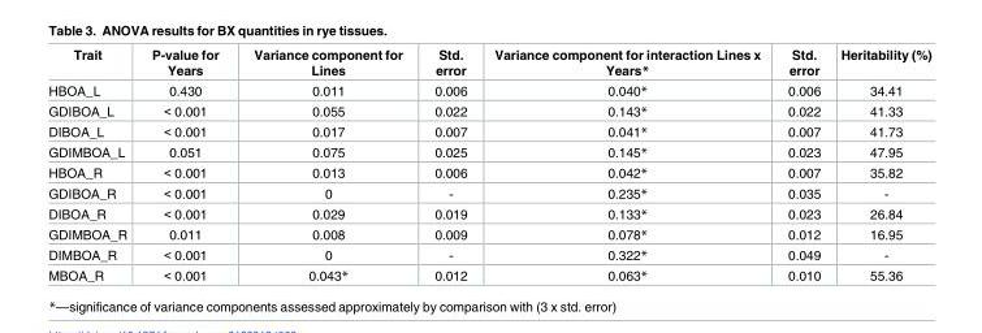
<table><thead><tr><td>Trait</td><td>P-value for Years</td><td>Variance component for Lines</td><td>Std. error</td><td>Variance component for interaction Lines x Years*</td><td>Std. error</td><td>Heritability (%)</td></tr></thead><tbody><tr><td>HBOA_L</td><td>0.430</td><td>0.011</td><td>0.006</td><td>0.040*</td><td>0.006</td><td>34.41</td></tr><tr><td>GDIBOA_L</td><td>&lt; 0.001</td><td>0.055</td><td>0.022</td><td>0.143*</td><td>0.022</td><td>41.33</td></tr><tr><td>DIBOA_L</td><td>&lt; 0.001</td><td>0.017</td><td>0.007</td><td>0.041*</td><td>0.007</td><td>41.73</td></tr><tr><td>GDIMBOA_L</td><td>0.051</td><td>0.075</td><td>0.025</td><td>0.145*</td><td>0.023</td><td>47.95</td></tr><tr><td>HBOA_R</td><td>&lt; 0.001</td><td>0.013</td><td>0.006</td><td>0.042*</td><td>0.007</td><td>35.82</td></tr><tr><td>GDIBOA_R</td><td>&lt; 0.001</td><td>0</td><td>-</td><td>0.235*</td><td>0.035</td><td>-</td></tr><tr><td>DIBOA_R</td><td>&lt; 0.001</td><td>0.029</td><td>0.019</td><td>0.133*</td><td>0.023</td><td>26.84</td></tr><tr><td>GDIMBOA_R</td><td>0.011</td><td>0.008</td><td>0.009</td><td>0.078*</td><td>0.012</td><td>16.95</td></tr><tr><td>DIMBOA_R</td><td>&lt; 0.001</td><td>0</td><td>-</td><td>0.322*</td><td>0.049</td><td>-</td></tr><tr><td>MBOA_R</td><td>&lt; 0.001</td><td>0.043*</td><td>0.012</td><td>0.063*</td><td>0.010</td><td>55.36</td></tr></tbody></table>